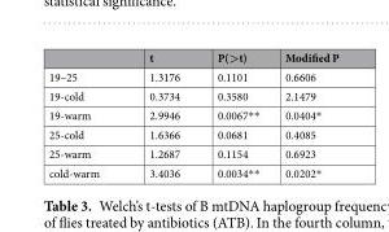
<table><thead><tr><td></td><td>t</td><td>P(&gt;t)</td><td>Modified P</td></tr></thead><tbody><tr><td>19–25</td><td>1.3176</td><td>0.1101</td><td>0.6606</td></tr><tr><td>19-cold</td><td>0.3734</td><td>0.3580</td><td>2.1479</td></tr><tr><td>19-warm</td><td>2.9946</td><td>0.0067**</td><td>0.0404*</td></tr><tr><td>25-cold</td><td>1.6366</td><td>0.0681</td><td>0.4085</td></tr><tr><td>25-warm</td><td>1.2687</td><td>0.1154</td><td>0.6923</td></tr><tr><td>cold-warm</td><td>3.4036</td><td>0.0034**</td><td>0.0202*</td></tr></tbody></table>